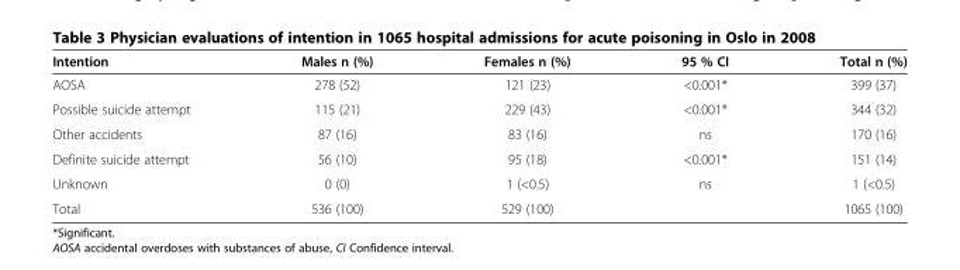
<table><thead><tr><td>Intention</td><td>Males n (%)</td><td>Females n (%)</td><td>95 % CI</td><td>Total n (%)</td></tr></thead><tbody><tr><td>AOSA</td><td>278 (52)</td><td>121 (23)</td><td>&lt;0.001*</td><td>399 (37)</td></tr><tr><td>Possible suicide attempt</td><td>115 (21)</td><td>229 (43)</td><td>&lt;0.001*</td><td>344 (32)</td></tr><tr><td>Other accidents</td><td>87 (16)</td><td>83 (16)</td><td>ns</td><td>170 (16)</td></tr><tr><td>Definite suicide attempt</td><td>56 (10)</td><td>95 (18)</td><td>&lt;0.001*</td><td>151 (14)</td></tr><tr><td>Unknown</td><td>0 (0)</td><td>1 (&lt;0.5)</td><td>ns</td><td>1 (&lt;0.5)</td></tr><tr><td>Total</td><td>536 (100)</td><td>529 (100)</td><td></td><td>1065 (100)</td></tr></tbody></table>